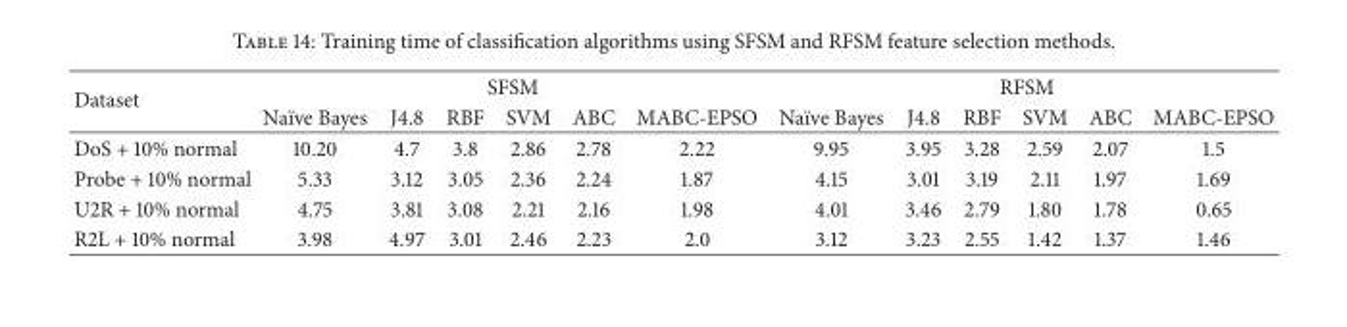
<table><thead><tr><td rowspan="2">Dataset</td><td colspan="6">SFSM</td><td colspan="6">RFSM</td></tr><tr><td>Na¨ıve Bayes</td><td>J4.8</td><td>RBF</td><td>SVM</td><td>ABC</td><td>MABC-EPSO</td><td>Na¨ıve Bayes</td><td>J4.8</td><td>RBF</td><td>SVM</td><td>ABC</td><td>MABC-EPSO</td></tr></thead><tbody><tr><td>DoS + 10% normal</td><td>10.20</td><td>4.7</td><td>3.8</td><td>2.86</td><td>2.78</td><td>2.22</td><td>9.95</td><td>3.95</td><td>3.28</td><td>2.59</td><td>2.07</td><td>1.5</td></tr><tr><td>Probe + 10% normal</td><td>5.33</td><td>3.12</td><td>3.05</td><td>2.36</td><td>2.24</td><td>1.87</td><td>4.15</td><td>3.01</td><td>3.19</td><td>2.11</td><td>1.97</td><td>1.69</td></tr><tr><td>U2R + 10% normal</td><td>4.75</td><td>3.81</td><td>3.08</td><td>2.21</td><td>2.16</td><td>1.98</td><td>4.01</td><td>3.46</td><td>2.79</td><td>1.80</td><td>1.78</td><td>0.65</td></tr><tr><td>R2L + 10% normal</td><td>3.98</td><td>4.97</td><td>3.01</td><td>2.46</td><td>2.23</td><td>2.0</td><td>3.12</td><td>3.23</td><td>2.55</td><td>1.42</td><td>1.37</td><td>1.46</td></tr></tbody></table>